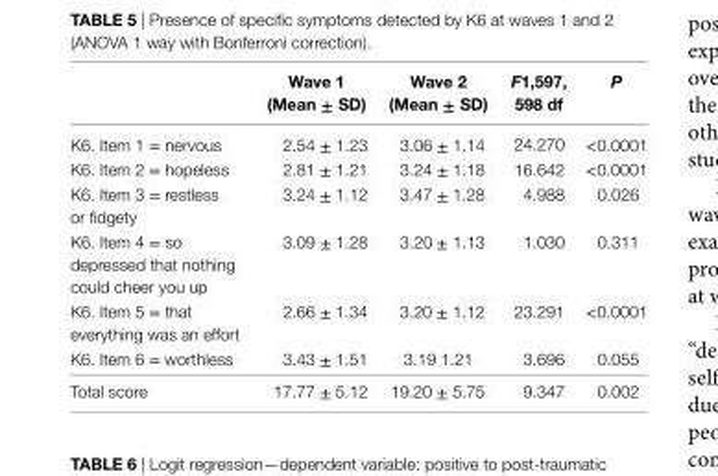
<table><thead><tr><td></td><td>Wave 1 (Mean ± sD)</td><td>Wave 2 (Mean ± sD)</td><td>F1,597, 598 df</td><td>P</td></tr></thead><tbody><tr><td>K6. Item 1 = nervous</td><td>2.54 ± 1.23</td><td>3.06 ± 1.14</td><td>24.270</td><td>&lt;0.0001</td></tr><tr><td>K6. Item 2 = hopeless</td><td>2.81 ± 1.21</td><td>3.24 ± 1.18</td><td>16.642</td><td>&lt;0.0001</td></tr><tr><td>K6. Item 3 = restless or fidgety</td><td>3.24 ± 1.12</td><td>3.47 ± 1.28</td><td>4.988</td><td>0.026</td></tr><tr><td>K6. Item 4 = so depressed that nothing could cheer you up</td><td>3.09 ± 1.28</td><td>3.20 ± 1.13</td><td>1.030</td><td>0.311</td></tr><tr><td>K6. Item 5 = that everything was an effort</td><td>2.66 ± 1.34</td><td>3.20 ± 1.12</td><td>23.291</td><td>&lt;0.0001</td></tr><tr><td>K6. Item 6 = worthless</td><td>3.43 ± 1.51</td><td>3.19 1.21</td><td>3.696</td><td>0.055</td></tr><tr><td>Total score</td><td>17.77 ± 5.12</td><td>19.20 ± 5.75</td><td>9.347</td><td>0.002</td></tr></tbody></table>